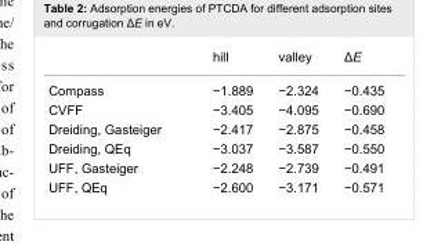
<table><thead><tr><td></td><td>hill</td><td>valley</td><td>ΔE</td></tr></thead><tbody><tr><td>Compass</td><td>−1.889</td><td>−2.324</td><td>−0.435</td></tr><tr><td>CVFF</td><td>−3.405</td><td>−4.095</td><td>−0.690</td></tr><tr><td>Dreiding, Gasteiger</td><td>−2.417</td><td>−2.875</td><td>−0.458</td></tr><tr><td>Dreiding, QEq</td><td>−3.037</td><td>−3.587</td><td>−0.550</td></tr><tr><td>UFF, Gasteiger</td><td>−2.248</td><td>−2.739</td><td>−0.491</td></tr><tr><td>UFF, QEq</td><td>−2.600</td><td>−3.171</td><td>−0.571</td></tr></tbody></table>